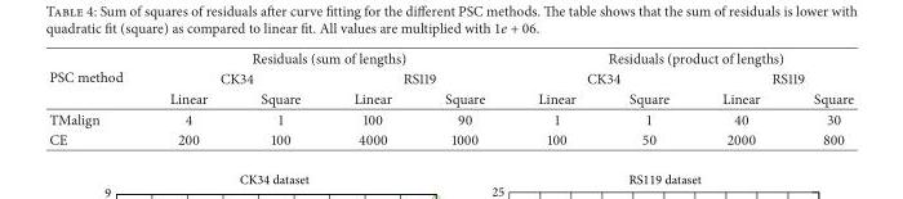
<table><thead><tr><td rowspan="3">PSC method</td><td colspan="4">Residuals (sum of lengths)</td><td colspan="4">Residuals (product of lengths)</td></tr><tr><td colspan="2">CK34</td><td colspan="2">RS119</td><td colspan="2">CK34</td><td colspan="2">RS119</td></tr><tr><td>Linear</td><td>Square</td><td>Linear</td><td>Square</td><td>Linear</td><td>Square</td><td>Linear</td><td>Square</td></tr></thead><tbody><tr><td>TMalign</td><td>4</td><td>1</td><td>100</td><td>90</td><td>1</td><td>1</td><td>40</td><td>30</td></tr><tr><td>CE</td><td>200</td><td>100</td><td>4000</td><td>1000</td><td>100</td><td>50</td><td>2000</td><td>800</td></tr></tbody></table>